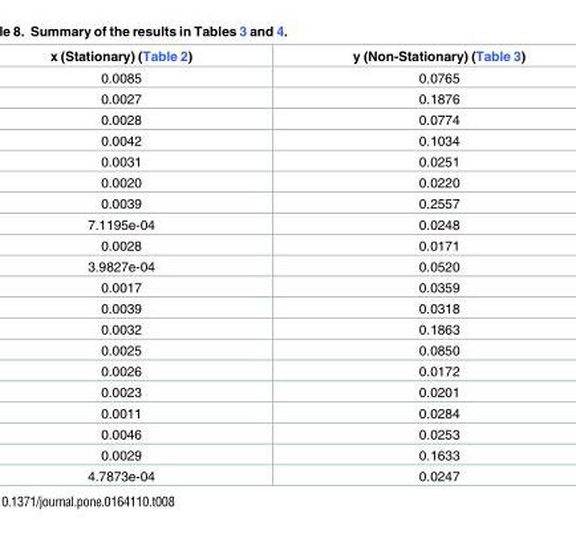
<table><thead><tr><td>x (Stationary) (Table 2)</td><td>y (Non-Stationary) (Table 3)</td></tr></thead><tbody><tr><td>0.0085</td><td>0.0765</td></tr><tr><td>0.0027</td><td>0.1876</td></tr><tr><td>0.0028</td><td>0.0774</td></tr><tr><td>0.0042</td><td>0.1034</td></tr><tr><td>0.0031</td><td>0.0251</td></tr><tr><td>0.0020</td><td>0.0220</td></tr><tr><td>0.0039</td><td>0.2557</td></tr><tr><td>7.1195e-04</td><td>0.0248</td></tr><tr><td>0.0028</td><td>0.0171</td></tr><tr><td>3.9827e-04</td><td>0.0520</td></tr><tr><td>0.0017</td><td>0.0359</td></tr><tr><td>0.0039</td><td>0.0318</td></tr><tr><td>0.0032</td><td>0.1863</td></tr><tr><td>0.0025</td><td>0.0850</td></tr><tr><td>0.0026</td><td>0.0172</td></tr><tr><td>0.0023</td><td>0.0201</td></tr><tr><td>0.0011</td><td>0.0284</td></tr><tr><td>0.0046</td><td>0.0253</td></tr><tr><td>0.0029</td><td>0.1633</td></tr><tr><td>4.7873e-04</td><td>0.0247</td></tr></tbody></table>